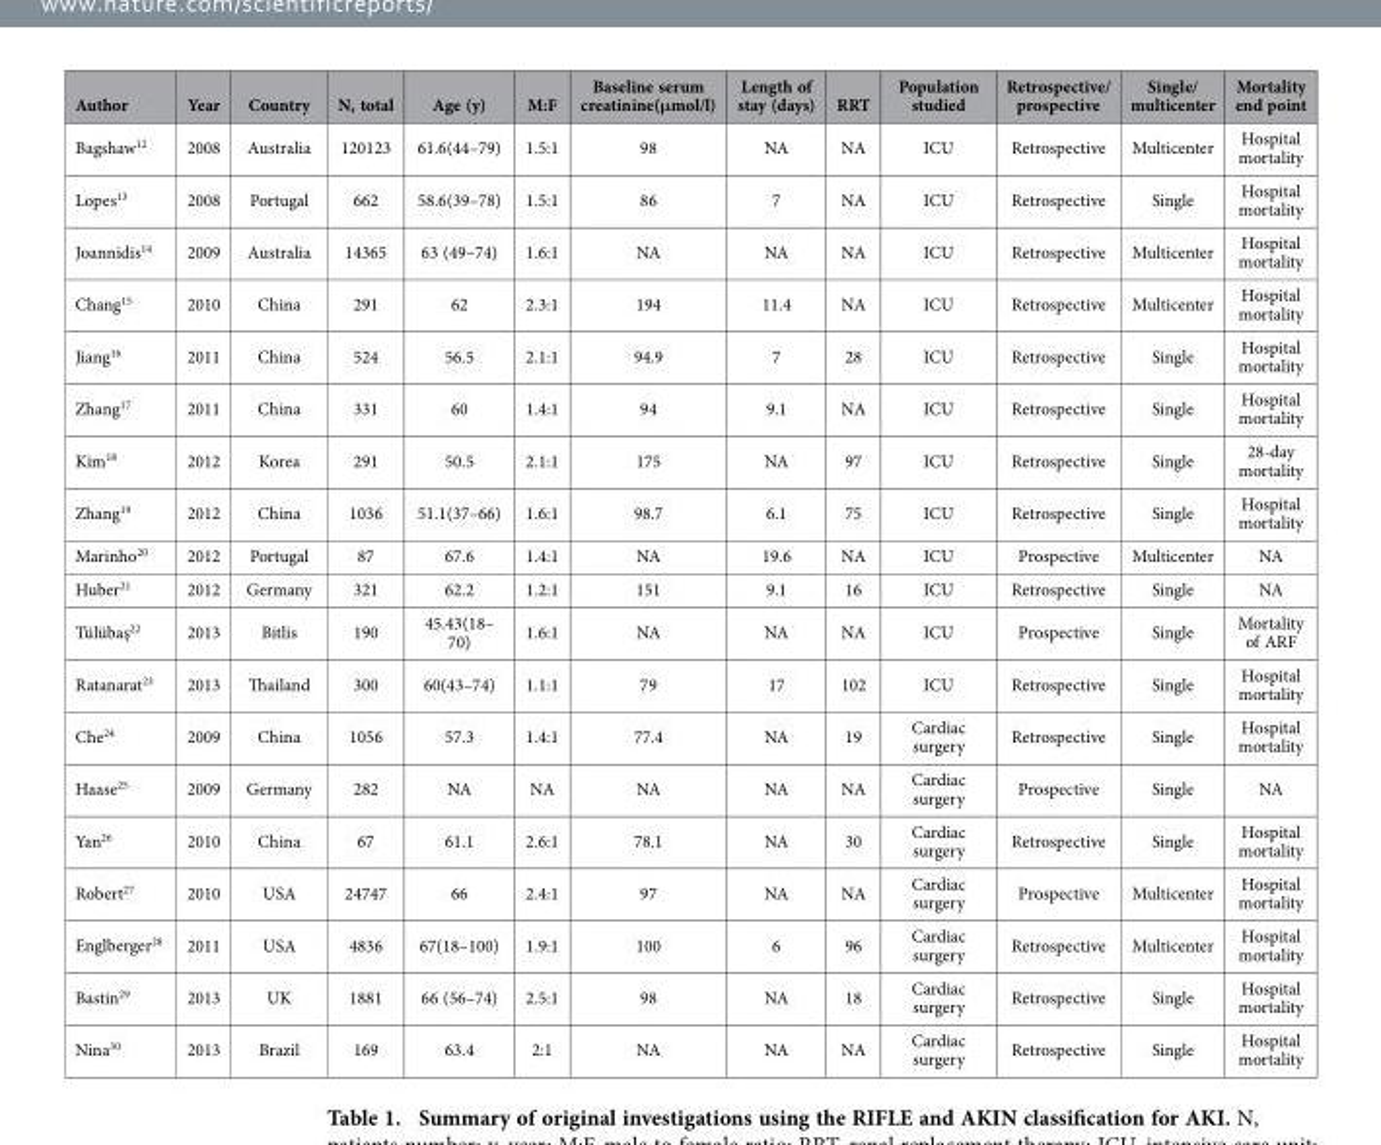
<table><thead><tr><td>Author</td><td>Year</td><td>Country</td><td>N, total</td><td>Age (y)</td><td>M:F</td><td>Baseline serum creatinine(μmol/l)</td><td>Length of stay (days)</td><td>RRT</td><td>Population studied</td><td>Retrospective/ prospective</td><td>Single/ multicenter</td><td>Mortality end point</td></tr></thead><tbody><tr><td>Bagshaw<sup>12</sup></td><td>2008</td><td>Australia</td><td>120123</td><td>61.6(44–79)</td><td>1.5:1</td><td>98</td><td>NA</td><td>NA</td><td>ICU</td><td>Retrospective</td><td>Multicenter</td><td>Hospital mortality</td></tr><tr><td>Lopes<sup>13</sup></td><td>2008</td><td>Portugal</td><td>662</td><td>58.6(39–78)</td><td>1.5:1</td><td>86</td><td>7</td><td>NA</td><td>ICU</td><td>Retrospective</td><td>Single</td><td>Hospital mortality</td></tr><tr><td>Joannidis<sup>14</sup></td><td>2009</td><td>Australia</td><td>14365</td><td>63 (49–74)</td><td>1.6:1</td><td>NA</td><td>NA</td><td>NA</td><td>ICU</td><td>Retrospective</td><td>Multicenter</td><td>Hospital mortality</td></tr><tr><td>Chang<sup>15</sup></td><td>2010</td><td>China</td><td>291</td><td>62</td><td>2.3:1</td><td>194</td><td>11.4</td><td>NA</td><td>ICU</td><td>Retrospective</td><td>Multicenter</td><td>Hospital mortality</td></tr><tr><td>Jiang<sup>16</sup></td><td>2011</td><td>China</td><td>524</td><td>56.5</td><td>2.1:1</td><td>94.9</td><td>7</td><td>28</td><td>ICU</td><td>Retrospective</td><td>Single</td><td>Hospital mortality</td></tr><tr><td>Zhang<sup>17</sup></td><td>2011</td><td>China</td><td>331</td><td>60</td><td>1.4:1</td><td>94</td><td>9.1</td><td>NA</td><td>ICU</td><td>Retrospective</td><td>Single</td><td>Hospital mortality</td></tr><tr><td>Kim<sup>18</sup></td><td>2012</td><td>Korea</td><td>291</td><td>50.5</td><td>2.1:1</td><td>175</td><td>NA</td><td>97</td><td>ICU</td><td>Retrospective</td><td>Single</td><td>28-day mortality</td></tr><tr><td>Zhang<sup>19</sup></td><td>2012</td><td>China</td><td>1036</td><td>51.1(37–66)</td><td>1.6:1</td><td>98.7</td><td>6.1</td><td>75</td><td>ICU</td><td>Retrospective</td><td>Single</td><td>Hospital mortality</td></tr><tr><td>Marinho<sup>20</sup></td><td>2012</td><td>Portugal</td><td>87</td><td>67.6</td><td>1.4:1</td><td>NA</td><td>19.6</td><td>NA</td><td>ICU</td><td>Prospective</td><td>Multicenter</td><td>NA</td></tr><tr><td>Huber<sup>21</sup></td><td>2012</td><td>Germany</td><td>321</td><td>62.2</td><td>1.2:1</td><td>151</td><td>9.1</td><td>16</td><td>ICU</td><td>Retrospective</td><td>Single</td><td>NA</td></tr><tr><td>Tülübaş<sup>22</sup></td><td>2013</td><td>Bitlis</td><td>190</td><td>45.43(18– 70)</td><td>1.6:1</td><td>NA</td><td>NA</td><td>NA</td><td>ICU</td><td>Prospective</td><td>Single</td><td>Mortality of ARF</td></tr><tr><td>Ratanarat<sup>23</sup></td><td>2013</td><td>Thailand</td><td>300</td><td>60(43–74)</td><td>1.1:1</td><td>79</td><td>17</td><td>102</td><td>ICU</td><td>Retrospective</td><td>Single</td><td>Hospital mortality</td></tr><tr><td>Che<sup>24</sup></td><td>2009</td><td>China</td><td>1056</td><td>57.3</td><td>1.4:1</td><td>77.4</td><td>NA</td><td>19</td><td>Cardiac surgery</td><td>Retrospective</td><td>Single</td><td>Hospital mortality</td></tr><tr><td>Haase<sup>25</sup></td><td>2009</td><td>Germany</td><td>282</td><td>NA</td><td>NA</td><td>NA</td><td>NA</td><td>NA</td><td>Cardiac surgery</td><td>Prospective</td><td>Single</td><td>NA</td></tr><tr><td>Yan<sup>26</sup></td><td>2010</td><td>China</td><td>67</td><td>61.1</td><td>2.6:1</td><td>78.1</td><td>NA</td><td>30</td><td>Cardiac surgery</td><td>Retrospective</td><td>Single</td><td>Hospital mortality</td></tr><tr><td>Robert<sup>27</sup></td><td>2010</td><td>USA</td><td>24747</td><td>66</td><td>2.4:1</td><td>97</td><td>NA</td><td>NA</td><td>Cardiac surgery</td><td>Prospective</td><td>Multicenter</td><td>Hospital mortality</td></tr><tr><td>Englberger<sup>28</sup></td><td>2011</td><td>USA</td><td>4836</td><td>67(18–100)</td><td>1.9:1</td><td>100</td><td>6</td><td>96</td><td>Cardiac surgery</td><td>Retrospective</td><td>Multicenter</td><td>Hospital mortality</td></tr><tr><td>Bastin<sup>29</sup></td><td>2013</td><td>UK</td><td>1881</td><td>66 (56–74)</td><td>2.5:1</td><td>98</td><td>NA</td><td>18</td><td>Cardiac surgery</td><td>Retrospective</td><td>Single</td><td>Hospital mortality</td></tr><tr><td>Nina<sup>30</sup></td><td>2013</td><td>Brazil</td><td>169</td><td>63.4</td><td>2:1</td><td>NA</td><td>NA</td><td>NA</td><td>Cardiac surgery</td><td>Retrospective</td><td>Single</td><td>Hospital mortality</td></tr></tbody></table>